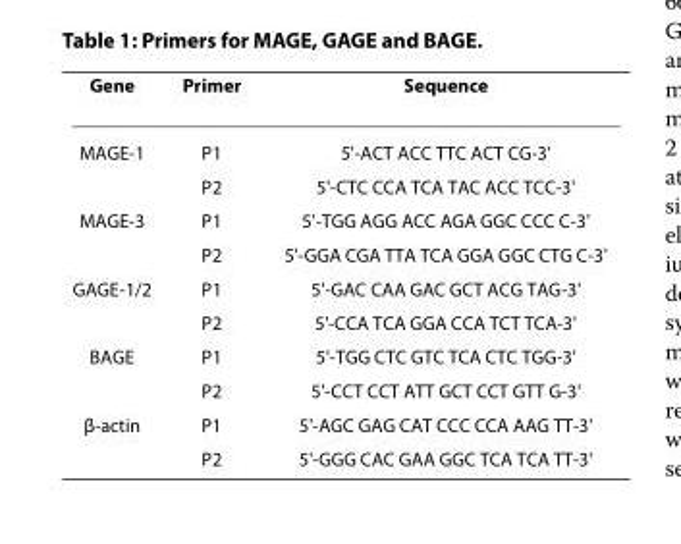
<table><thead><tr><td>Gene</td><td>Primer</td><td>Sequence</td></tr></thead><tbody><tr><td rowspan="2">MAGE-1</td><td>P1</td><td>5&#x27;-ACT ACC TTC ACT CG-3&#x27;</td></tr><tr><td>P2</td><td>5&#x27;-CTC CCA TCA TAC ACC TCC-3&#x27;</td></tr><tr><td rowspan="2">MAGE-3</td><td>P1</td><td>5&#x27;-TGG AGG ACC AGA GGC CCC C-3&#x27;</td></tr><tr><td>P2</td><td>5&#x27;-GGA CGA TTA TCA GGA GGC CTG C-3&#x27;</td></tr><tr><td rowspan="2">GAGE-1/2</td><td>P1</td><td>5&#x27;-GAC CAA GAC GCT ACG TAG-3&#x27;</td></tr><tr><td>P2</td><td>5&#x27;-CCA TCA GGA CCA TCT TCA-3&#x27;</td></tr><tr><td rowspan="2">BAGE</td><td>P1</td><td>5&#x27;-TGG CTC GTC TCA CTC TGG-3&#x27;</td></tr><tr><td>P2</td><td>5&#x27;-CCT CCT ATT GCT CCT GTT G-3&#x27;</td></tr><tr><td rowspan="2">β-actin</td><td>P1</td><td>5&#x27;-AGC GAG CAT CCC CCA AAG TT-3&#x27;</td></tr><tr><td>P2</td><td>5&#x27;-GGG CAC GAA GGC TCA TCA TT-3&#x27;</td></tr></tbody></table>